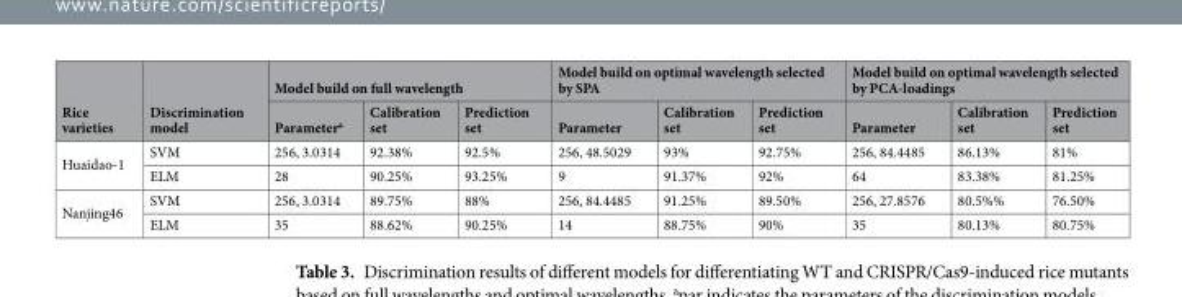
<table><thead><tr><td rowspan="2">Rice varieties</td><td rowspan="2">Discrimination model</td><td colspan="3">Model build on full wavelength</td><td colspan="3">Model build on optimal wavelength selected by SPA</td><td colspan="3">Model build on optimal wavelength selected by PCA-loadings</td></tr><tr><td>Parameter<sup>a</sup></td><td>Calibration set</td><td>Prediction set</td><td>Parameter</td><td>Calibration set</td><td>Prediction set</td><td>Parameter</td><td>Calibration set</td><td>Prediction set</td></tr></thead><tbody><tr><td rowspan="2">Huaidao-1</td><td>SVM</td><td>256, 3.0314</td><td>92.38%</td><td>92.5%</td><td>256, 48.5029</td><td>93%</td><td>92.75%</td><td>256, 84.4485</td><td>86.13%</td><td>81%</td></tr><tr><td>ELM</td><td>28</td><td>90.25%</td><td>93.25%</td><td>9</td><td>91.37%</td><td>92%</td><td>64</td><td>83.38%</td><td>81.25%</td></tr><tr><td rowspan="2">Nanjing46</td><td>SVM</td><td>256, 3.0314</td><td>89.75%</td><td>88%</td><td>256, 84.4485</td><td>91.25%</td><td>89.50%</td><td>256, 27.8576</td><td>80.5%%</td><td>76.50%</td></tr><tr><td>ELM</td><td>35</td><td>88.62%</td><td>90.25%</td><td>14</td><td>88.75%</td><td>90%</td><td>35</td><td>80.13%</td><td>80.75%</td></tr></tbody></table>